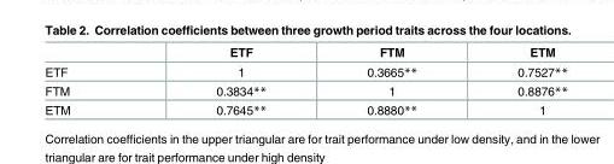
<table><thead><tr><td></td><td>ETF</td><td>FTM</td><td>ETM</td></tr></thead><tbody><tr><td>ETF</td><td>1</td><td>0.3665**</td><td>0.7527**</td></tr><tr><td>FTM</td><td>0.3834**</td><td>1</td><td>0.8876**</td></tr><tr><td>ETM</td><td>0.7645**</td><td>0.8880**</td><td>1</td></tr></tbody></table>